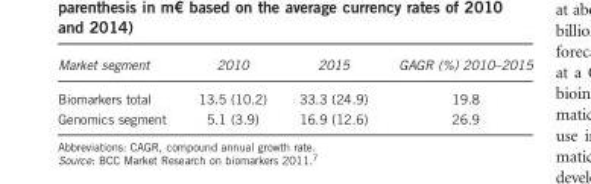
<table><thead><tr><td>Market segment</td><td>2010</td><td>2015</td><td>GAGR (%) 2010–2015</td></tr></thead><tbody><tr><td>Biomarkers total</td><td>13.5 (10.2)</td><td>33.3 (24.9)</td><td>19.8</td></tr><tr><td>Genomics segment</td><td>5.1 (3.9)</td><td>16.9 (12.6)</td><td>26.9</td></tr></tbody></table>